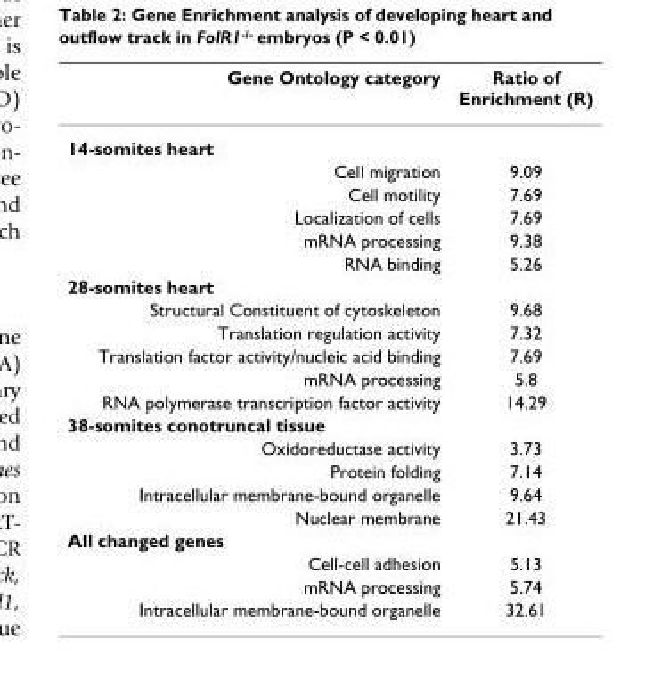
<table><thead><tr><td>Gene Ontology category</td><td>Ratio of Enrichment (R)</td></tr></thead><tbody><tr><td colspan="2">14-somites heart</td></tr><tr><td>Cell migration</td><td>9.09</td></tr><tr><td>Cell motility</td><td>7.69</td></tr><tr><td>Localization of cells</td><td>7.69</td></tr><tr><td>mRNA processing</td><td>9.38</td></tr><tr><td>RNA binding</td><td>5.26</td></tr><tr><td colspan="2">28-somites heart</td></tr><tr><td>Structural Constituent of cytoskeleton</td><td>9.68</td></tr><tr><td>Translation regulation activity</td><td>7.32</td></tr><tr><td>Translation factor activity/nucleic acid binding</td><td>7.69</td></tr><tr><td>mRNA processing</td><td>5.8</td></tr><tr><td>RNA polymerase transcription factor activity</td><td>14.29</td></tr><tr><td colspan="2">38-somites conotruncal tissue</td></tr><tr><td>Oxidoreductase activity</td><td>3.73</td></tr><tr><td>Protein folding</td><td>7.14</td></tr><tr><td>Intracellular membrane-bound organelle</td><td>9.64</td></tr><tr><td>Nuclear membrane</td><td>21.43</td></tr><tr><td colspan="2">All changed genes</td></tr><tr><td>Cell-cell adhesion</td><td>5.13</td></tr><tr><td>mRNA processing</td><td>5.74</td></tr><tr><td>Intracellular membrane-bound organelle</td><td>32.61</td></tr></tbody></table>